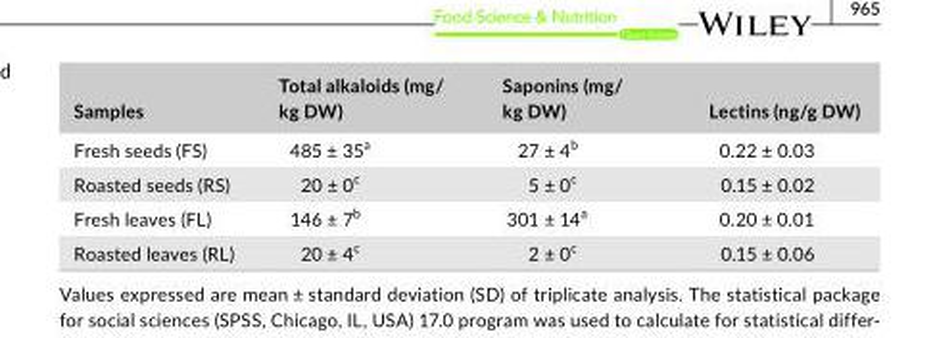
<table><thead><tr><td>Samples</td><td>Total alkaloids (mg/ kg DW)</td><td>Saponins (mg/ kg DW)</td><td>Lectins (ng/g DW)</td></tr></thead><tbody><tr><td>Fresh seeds (FS)</td><td>485 ± 35<sup>a</sup></td><td>27 ± 4<sup>b</sup></td><td>0.22 ± 0.03</td></tr><tr><td>Roasted seeds (RS)</td><td>20 ± 0<sup>c</sup></td><td>5 ± 0<sup>c</sup></td><td>0.15 ± 0.02</td></tr><tr><td>Fresh leaves (FL)</td><td>146 ± 7<sup>b</sup></td><td>301 ± 14<sup>a</sup></td><td>0.20 ± 0.01</td></tr><tr><td>Roasted leaves (RL)</td><td>20 ± 4<sup>c</sup></td><td>2 ± 0<sup>c</sup></td><td>0.15 ± 0.06</td></tr></tbody></table>